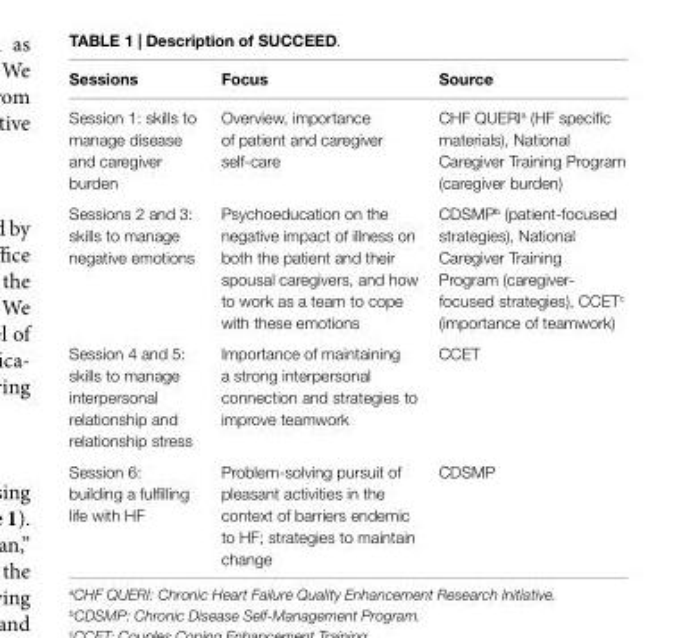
<table><thead><tr><td>sessions</td><td>Focus</td><td>source</td></tr></thead><tbody><tr><td>Session 1: skills to manage disease and caregiver burden</td><td>Overview, importance of patient and caregiver self-care</td><td>CHF QUERI<sup>a</sup> (HF specific materials), National Caregiver Training Program (caregiver burden)</td></tr><tr><td>Sessions 2 and 3: skills to manage negative emotions</td><td>Psychoeducation on the negative impact of illness on both the patient and their spousal caregivers, and how to work as a team to cope with these emotions</td><td>CDSMP<sup>b</sup> (patient-focused strategies), National Caregiver Training Program (caregiver- focused strategies), CCET<sup>c</sup> (importance of teamwork)</td></tr><tr><td>Session 4 and 5: skills to manage interpersonal relationship and relationship stress</td><td>Importance of maintaining a strong interpersonal connection and strategies to improve teamwork</td><td>CCET</td></tr><tr><td>Session 6: building a fulfilling life with HF</td><td>Problem-solving pursuit of pleasant activities in the context of barriers endemic to HF; strategies to maintain change</td><td>CDSMP</td></tr></tbody></table>